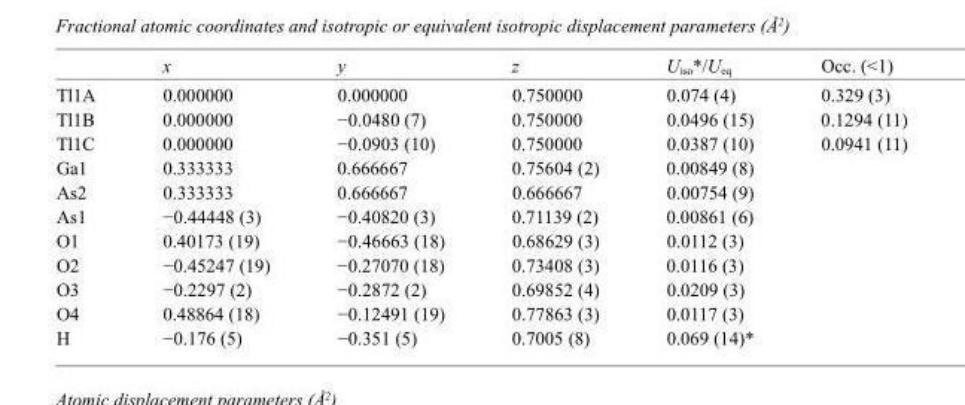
<table><thead><tr><td></td><td>x</td><td>y</td><td>z</td><td>U<sub>iso</sub>*/U<sub>eq</sub></td><td>Occ. (&lt;1)</td></tr></thead><tbody><tr><td>Tl1A</td><td>0.000000</td><td>0.000000</td><td>0.750000</td><td>0.074 (4)</td><td>0.329 (3)</td></tr><tr><td>Tl1B</td><td>0.000000</td><td>−0.0480 (7)</td><td>0.750000</td><td>0.0496 (15)</td><td>0.1294 (11)</td></tr><tr><td>Tl1C</td><td>0.000000</td><td>−0.0903 (10)</td><td>0.750000</td><td>0.0387 (10)</td><td>0.0941 (11)</td></tr><tr><td>Ga1</td><td>0.333333</td><td>0.666667</td><td>0.75604 (2)</td><td>0.00849 (8)</td><td></td></tr><tr><td>As2</td><td>0.333333</td><td>0.666667</td><td>0.666667</td><td>0.00754 (9)</td><td></td></tr><tr><td>As1</td><td>−0.44448 (3)</td><td>−0.40820 (3)</td><td>0.71139 (2)</td><td>0.00861 (6)</td><td></td></tr><tr><td>O1</td><td>0.40173 (19)</td><td>−0.46663 (18)</td><td>0.68629 (3)</td><td>0.0112 (3)</td><td></td></tr><tr><td>O2</td><td>−0.45247 (19)</td><td>−0.27070 (18)</td><td>0.73408 (3)</td><td>0.0116 (3)</td><td></td></tr><tr><td>O3</td><td>−0.2297 (2)</td><td>−0.2872 (2)</td><td>0.69852 (4)</td><td>0.0209 (3)</td><td></td></tr><tr><td>O4</td><td>0.48864 (18)</td><td>−0.12491 (19)</td><td>0.77863 (3)</td><td>0.0117 (3)</td><td></td></tr><tr><td>H</td><td>−0.176 (5)</td><td>−0.351 (5)</td><td>0.7005 (8)</td><td>0.069 (14)*</td><td></td></tr></tbody></table>